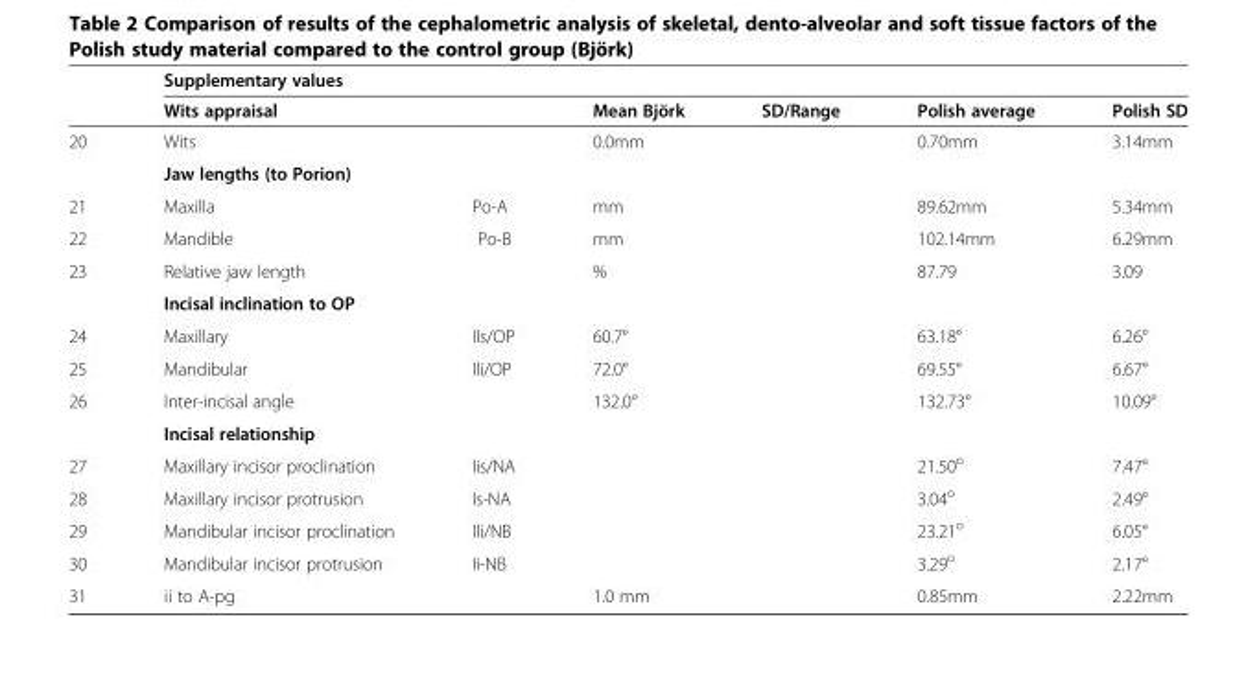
<table><thead><tr><td rowspan="2"></td><td colspan="6">Supplementary values</td></tr><tr><td>Wits appraisal</td><td></td><td>Mean Björk</td><td>SD/Range</td><td>Polish average</td><td>Polish SD</td></tr></thead><tbody><tr><td rowspan="2">20</td><td>Wits</td><td></td><td>0.0mm</td><td></td><td>0.70mm</td><td>3.14mm</td></tr><tr><td>Jaw lengths (to Porion)</td><td></td><td></td><td></td><td></td><td></td></tr><tr><td>21</td><td>Maxilla</td><td>Po-A</td><td>mm</td><td></td><td>89.62mm</td><td>5.34mm</td></tr><tr><td>22</td><td>Mandible</td><td>Po-B</td><td>mm</td><td></td><td>102.14mm</td><td>6.29mm</td></tr><tr><td rowspan="2">23</td><td>Relative jaw length</td><td></td><td>%</td><td></td><td>87.79</td><td>3.09</td></tr><tr><td>Incisal inclination to OP</td><td></td><td></td><td></td><td></td><td></td></tr><tr><td>24</td><td>Maxillary</td><td>Ils/OP</td><td>60.7°</td><td></td><td>63.18°</td><td>6.26°</td></tr><tr><td>25</td><td>Mandibular</td><td>Ili/OP</td><td>72.0°</td><td></td><td>69.55°</td><td>6.67°</td></tr><tr><td rowspan="2">26</td><td>Inter-incisal angle</td><td></td><td>132.0°</td><td></td><td>132.73°</td><td>10.09°</td></tr><tr><td>Incisal relationship</td><td></td><td></td><td></td><td></td><td></td></tr><tr><td>27</td><td>Maxillary incisor proclination</td><td>Iis/NA</td><td></td><td></td><td>21.50<sup>o</sup></td><td>7.47°</td></tr><tr><td>28</td><td>Maxillary incisor protrusion</td><td>Is-NA</td><td></td><td></td><td>3.04<sup>o</sup></td><td>2.49°</td></tr><tr><td>29</td><td>Mandibular incisor proclination</td><td>Ili/NB</td><td></td><td></td><td>23.21<sup>o</sup></td><td>6.05°</td></tr><tr><td>30</td><td>Mandibular incisor protrusion</td><td>Ii-NB</td><td></td><td></td><td>3.29<sup>o</sup></td><td>2.17°</td></tr><tr><td>31</td><td>ii to A-pg</td><td></td><td>1.0 mm</td><td></td><td>0.85mm</td><td>2.22mm</td></tr></tbody></table>